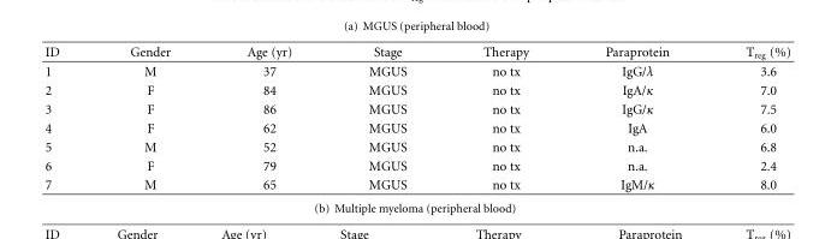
<table><thead><tr><td>ID</td><td>Gender</td><td>Age (yr)</td><td>Stage</td><td>Therapy</td><td>Paraprotein</td><td>T<sub>reg</sub> (%)</td></tr></thead><tbody><tr><td>1</td><td>M</td><td>37</td><td>MGUS</td><td>no tx</td><td>IgG/λ</td><td>3.6</td></tr><tr><td>2</td><td>F</td><td>84</td><td>MGUS</td><td>no tx</td><td>IgA/κ</td><td>7.0</td></tr><tr><td>3</td><td>F</td><td>86</td><td>MGUS</td><td>no tx</td><td>IgG/κ</td><td>7.5</td></tr><tr><td>4</td><td>F</td><td>62</td><td>MGUS</td><td>no tx</td><td>IgA</td><td>6.0</td></tr><tr><td>5</td><td>M</td><td>52</td><td>MGUS</td><td>no tx</td><td>n.a.</td><td>6.8</td></tr><tr><td>6</td><td>F</td><td>79</td><td>MGUS</td><td>no tx</td><td>n.a.</td><td>2.4</td></tr><tr><td>7</td><td>M</td><td>65</td><td>MGUS</td><td>no tx</td><td>IgM/κ</td><td>8.0</td></tr></tbody></table>